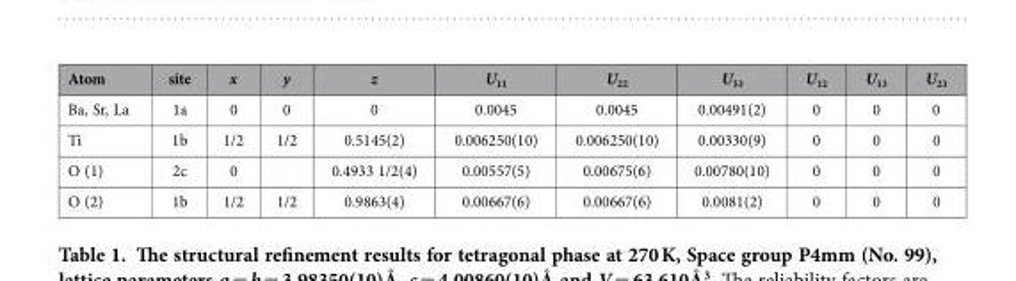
<table><thead><tr><td>Atom</td><td>site</td><td>x</td><td>y</td><td>z</td><td>U<sub>11</sub></td><td>U<sub>22</sub></td><td>U33</td><td>U<sub>12</sub></td><td>U<sub>13</sub></td><td>U23</td></tr></thead><tbody><tr><td>Ba, Sr, La</td><td>1a</td><td>0</td><td>0</td><td>0</td><td>0.0045</td><td>0.0045</td><td>0.00491(2)</td><td>0</td><td>0</td><td>0</td></tr><tr><td>Ti</td><td>1b</td><td>1/2</td><td>1/2</td><td>0.5145(2)</td><td>0.006250(10)</td><td>0.006250(10)</td><td>0.00330(9)</td><td>0</td><td>0</td><td>0</td></tr><tr><td>O (1)</td><td>2c</td><td>0</td><td></td><td>0.4933 1/2(4)</td><td>0.00557(5)</td><td>0.00675(6)</td><td>0.00780(10)</td><td>0</td><td>0</td><td>0</td></tr><tr><td>O (2)</td><td>1b</td><td>1/2</td><td>1/2</td><td>0.9863(4)</td><td>0.00667(6)</td><td>0.00667(6)</td><td>0.0081(2)</td><td>0</td><td>0</td><td>0</td></tr></tbody></table>